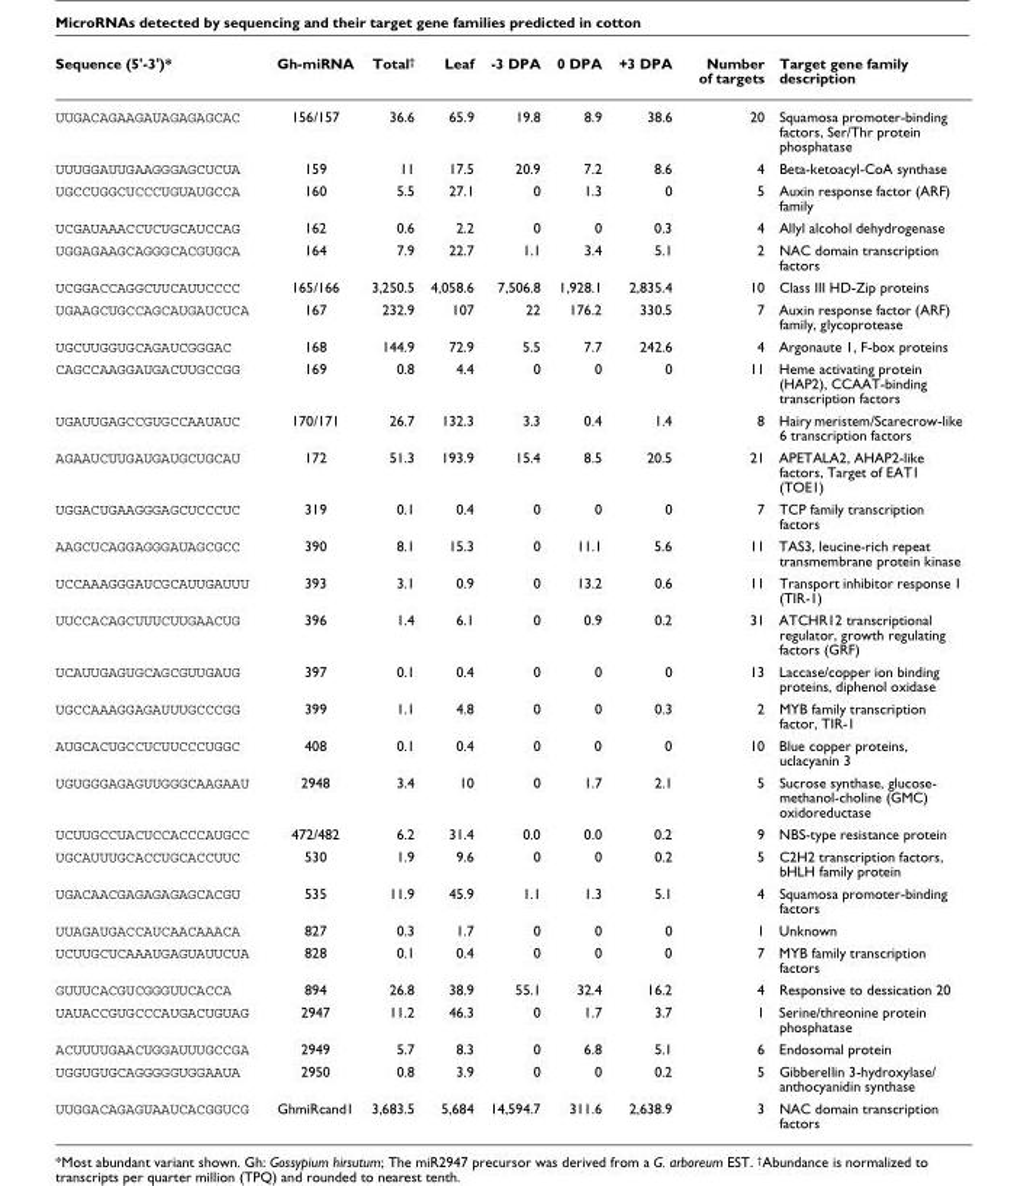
<table><thead><tr><td>Sequence (5&#x27;-3&#x27;)*</td><td>Gh-miRNA</td><td>Total<sup>†</sup></td><td>Leaf</td><td>-3 DPA</td><td>0 DPA</td><td>+3 DPA</td><td>Number of targets</td><td>Target gene family description</td></tr></thead><tbody><tr><td>UUGACAGAAGAUAGAGAGCAC</td><td>156/157</td><td>36.6</td><td>65.9</td><td>19.8</td><td>8.9</td><td>38.6</td><td>20</td><td>Squamosa promoter-binding factors, Ser/Thr protein phosphatase</td></tr><tr><td>UUUGGAUUGAAGGGAGCUCUA</td><td>159</td><td>11</td><td>17.5</td><td>20.9</td><td>7.2</td><td>8.6</td><td>4</td><td>Beta-ketoacyl-CoA synthase</td></tr><tr><td>UGCCUGGCUCCCUGUAUGCCA</td><td>160</td><td>5.5</td><td>27.1</td><td>0</td><td>1.3</td><td>0</td><td>5</td><td>Auxin response factor (ARF) family</td></tr><tr><td>UCGAUAAACCUCUGCAUCCAG</td><td>162</td><td>0.6</td><td>2.2</td><td>0</td><td>0</td><td>0.3</td><td>4</td><td>Allyl alcohol dehydrogenase</td></tr><tr><td>UGGAGAAGCAGGGCACGUGCA</td><td>164</td><td>7.9</td><td>22.7</td><td>1.1</td><td>3.4</td><td>5.1</td><td>2</td><td>NAC domain transcription factors</td></tr><tr><td>UCGGACCAGGCUUCAUUCCCC</td><td>165/166</td><td>3,250.5</td><td>4,058.6</td><td>7,506.8</td><td>1,928.1</td><td>2,835.4</td><td>10</td><td>Class III HD-Zip proteins</td></tr><tr><td>UGAAGCUGCCAGCAUGAUCUCA</td><td>167</td><td>232.9</td><td>107</td><td>22</td><td>176.2</td><td>330.5</td><td>7</td><td>Auxin response factor (ARF) family, glycoprotease</td></tr><tr><td>UGCUUGGUGCAGAUCGGGAC</td><td>168</td><td>144.9</td><td>72.9</td><td>5.5</td><td>7.7</td><td>242.6</td><td>4</td><td>Argonaute 1, F-box proteins</td></tr><tr><td>CAGCCAAGGAUGACUUGCCGG</td><td>169</td><td>0.8</td><td>4.4</td><td>0</td><td>0</td><td>0</td><td>11</td><td>Heme activating protein (HAP2), CCAAT-binding transcription factors</td></tr><tr><td>UGAUUGAGCCGUGCCAAUAUC</td><td>170/171</td><td>26.7</td><td>132.3</td><td>3.3</td><td>0.4</td><td>1.4</td><td>8</td><td>Hairy meristem/Scarecrow-like 6 transcription factors</td></tr><tr><td>AGAAUCUUGAUGAUGCUGCAU</td><td>172</td><td>51.3</td><td>193.9</td><td>15.4</td><td>8.5</td><td>20.5</td><td>21</td><td>APETALA2, AHAP2-like factors, Target of EAT1 (TOE1)</td></tr><tr><td>UGGACUGAAGGGAGCUCCCUC</td><td>319</td><td>0.1</td><td>0.4</td><td>0</td><td>0</td><td>0</td><td>7</td><td>TCP family transcription factors</td></tr><tr><td>AAGCUCAGGAGGGAUAGCGCC</td><td>390</td><td>8.1</td><td>15.3</td><td>0</td><td>11.1</td><td>5.6</td><td>11</td><td>TAS3, leucine-rich repeat transmembrane protein kinase</td></tr><tr><td>UCCAAAGGGAUCGCAUUGAUUU</td><td>393</td><td>3.1</td><td>0.9</td><td>0</td><td>13.2</td><td>0.6</td><td>11</td><td>Transport inhibitor response 1 (TIR-1)</td></tr><tr><td>UUCCACAGCUUUCUUGAACUG</td><td>396</td><td>1.4</td><td>6.1</td><td>0</td><td>0.9</td><td>0.2</td><td>31</td><td>ATCHR12 transcriptional regulator, growth regulating factors (GRF)</td></tr><tr><td>UCAUUGAGUGCAGCGUUGAUG</td><td>397</td><td>0.1</td><td>0.4</td><td>0</td><td>0</td><td>0</td><td>13</td><td>Laccase/copper ion binding proteins, diphenol oxidase</td></tr><tr><td>UGCCAAAGGAGAUUUGCCCGG</td><td>399</td><td>1.1</td><td>4.8</td><td>0</td><td>0</td><td>0.3</td><td>2</td><td>MYB family transcription factor, TIR-1</td></tr><tr><td>AUGCACUGCCUCUUCCCUGGC</td><td>408</td><td>0.1</td><td>0.4</td><td>0</td><td>0</td><td>0</td><td>10</td><td>Blue copper proteins, uclacyanin 3</td></tr><tr><td>UGUGGGAGAGUUGGGCAAGAAU</td><td>2948</td><td>3.4</td><td>10</td><td>0</td><td>1.7</td><td>2.1</td><td>5</td><td>Sucrose synthase, glucose- methanol-choline (GMC) oxidoreductase</td></tr><tr><td>UCUUGCCUACUCCACCCAUGCC</td><td>472/482</td><td>6.2</td><td>31.4</td><td>0.0</td><td>0.0</td><td>0.2</td><td>9</td><td>NBS-type resistance protein</td></tr><tr><td>UGCAUUUGCACCUGCACCUUC</td><td>530</td><td>1.9</td><td>9.6</td><td>0</td><td>0</td><td>0.2</td><td>5</td><td>C2H2 transcription factors, bHLH family protein</td></tr><tr><td>UGACAACGAGAGAGAGCACGU</td><td>535</td><td>11.9</td><td>45.9</td><td>1.1</td><td>1.3</td><td>5.1</td><td>4</td><td>Squamosa promoter-binding factors</td></tr><tr><td>UUAGAUGACCAUCAACAAACA</td><td>827</td><td>0.3</td><td>1.7</td><td>0</td><td>0</td><td>0</td><td>1</td><td>Unknown</td></tr><tr><td>UCUUGCUCAAAUGAGUAUUCUA</td><td>828</td><td>0.1</td><td>0.4</td><td>0</td><td>0</td><td>0</td><td>7</td><td>MYB family transcription factors</td></tr><tr><td>GUUUCACGUCGGGUUCACCA</td><td>894</td><td>26.8</td><td>38.9</td><td>55.1</td><td>32.4</td><td>16.2</td><td>4</td><td>Responsive to dessication 20</td></tr><tr><td>UAUACCGUGCCCAUGACUGUAG</td><td>2947</td><td>11.2</td><td>46.3</td><td>0</td><td>1.7</td><td>3.7</td><td>1</td><td>Serine/threonine protein phosphatase</td></tr><tr><td>ACUUUUGAACUGGAUUUGCCGA</td><td>2949</td><td>5.7</td><td>8.3</td><td>0</td><td>6.8</td><td>5.1</td><td>6</td><td>Endosomal protein</td></tr><tr><td>UGGUGUGCAGGGGGUGGAAUA</td><td>2950</td><td>0.8</td><td>3.9</td><td>0</td><td>0</td><td>0.2</td><td>5</td><td>Gibberellin 3-hydroxylase/ anthocyanidin synthase</td></tr><tr><td>UUGGACAGAGUAAUCACGGUCG</td><td>GhmiRcand1</td><td>3,683.5</td><td>5,684</td><td>14,594.7</td><td>311.6</td><td>2,638.9</td><td>3</td><td>NAC domain transcription factors</td></tr></tbody></table>